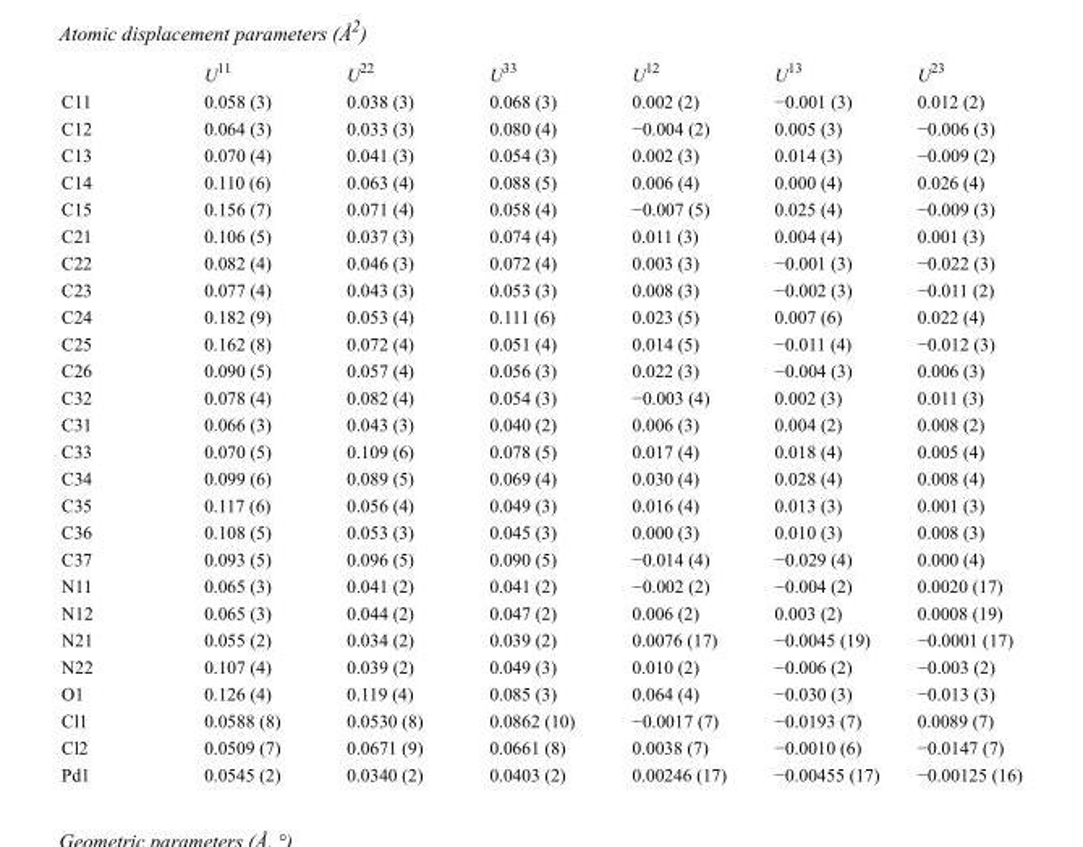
<table><thead><tr><td></td><td>U<sup>11</sup></td><td>U<sup>22</sup></td><td>U<sup>33</sup></td><td>U<sup>12</sup></td><td>U<sup>13</sup></td><td>U<sup>23</sup></td></tr></thead><tbody><tr><td>C11</td><td>0.058 (3)</td><td>0.038 (3)</td><td>0.068 (3)</td><td>0.002 (2)</td><td>−0.001 (3)</td><td>0.012 (2)</td></tr><tr><td>C12</td><td>0.064 (3)</td><td>0.033 (3)</td><td>0.080 (4)</td><td>−0.004 (2)</td><td>0.005 (3)</td><td>−0.006 (3)</td></tr><tr><td>C13</td><td>0.070 (4)</td><td>0.041 (3)</td><td>0.054 (3)</td><td>0.002 (3)</td><td>0.014 (3)</td><td>−0.009 (2)</td></tr><tr><td>C14</td><td>0.110 (6)</td><td>0.063 (4)</td><td>0.088 (5)</td><td>0.006 (4)</td><td>0.000 (4)</td><td>0.026 (4)</td></tr><tr><td>C15</td><td>0.156 (7)</td><td>0.071 (4)</td><td>0.058 (4)</td><td>−0.007 (5)</td><td>0.025 (4)</td><td>−0.009 (3)</td></tr><tr><td>C21</td><td>0.106 (5)</td><td>0.037 (3)</td><td>0.074 (4)</td><td>0.011 (3)</td><td>0.004 (4)</td><td>0.001 (3)</td></tr><tr><td>C22</td><td>0.082 (4)</td><td>0.046 (3)</td><td>0.072 (4)</td><td>0.003 (3)</td><td>−0.001 (3)</td><td>−0.022 (3)</td></tr><tr><td>C23</td><td>0.077 (4)</td><td>0.043 (3)</td><td>0.053 (3)</td><td>0.008 (3)</td><td>−0.002 (3)</td><td>−0.011 (2)</td></tr><tr><td>C24</td><td>0.182 (9)</td><td>0.053 (4)</td><td>0.111 (6)</td><td>0.023 (5)</td><td>0.007 (6)</td><td>0.022 (4)</td></tr><tr><td>C25</td><td>0.162 (8)</td><td>0.072 (4)</td><td>0.051 (4)</td><td>0.014 (5)</td><td>−0.011 (4)</td><td>−0.012 (3)</td></tr><tr><td>C26</td><td>0.090 (5)</td><td>0.057 (4)</td><td>0.056 (3)</td><td>0.022 (3)</td><td>−0.004 (3)</td><td>0.006 (3)</td></tr><tr><td>C32</td><td>0.078 (4)</td><td>0.082 (4)</td><td>0.054 (3)</td><td>−0.003 (4)</td><td>0.002 (3)</td><td>0.011 (3)</td></tr><tr><td>C31</td><td>0.066 (3)</td><td>0.043 (3)</td><td>0.040 (2)</td><td>0.006 (3)</td><td>0.004 (2)</td><td>0.008 (2)</td></tr><tr><td>C33</td><td>0.070 (5)</td><td>0.109 (6)</td><td>0.078 (5)</td><td>0.017 (4)</td><td>0.018 (4)</td><td>0.005 (4)</td></tr><tr><td>C34</td><td>0.099 (6)</td><td>0.089 (5)</td><td>0.069 (4)</td><td>0.030 (4)</td><td>0.028 (4)</td><td>0.008 (4)</td></tr><tr><td>C35</td><td>0.117 (6)</td><td>0.056 (4)</td><td>0.049 (3)</td><td>0.016 (4)</td><td>0.013 (3)</td><td>0.001 (3)</td></tr><tr><td>C36</td><td>0.108 (5)</td><td>0.053 (3)</td><td>0.045 (3)</td><td>0.000 (3)</td><td>0.010 (3)</td><td>0.008 (3)</td></tr><tr><td>C37</td><td>0.093 (5)</td><td>0.096 (5)</td><td>0.090 (5)</td><td>−0.014 (4)</td><td>−0.029 (4)</td><td>0.000 (4)</td></tr><tr><td>N11</td><td>0.065 (3)</td><td>0.041 (2)</td><td>0.041 (2)</td><td>−0.002 (2)</td><td>−0.004 (2)</td><td>0.0020 (17)</td></tr><tr><td>N12</td><td>0.065 (3)</td><td>0.044 (2)</td><td>0.047 (2)</td><td>0.006 (2)</td><td>0.003 (2)</td><td>0.0008 (19)</td></tr><tr><td>N21</td><td>0.055 (2)</td><td>0.034 (2)</td><td>0.039 (2)</td><td>0.0076 (17)</td><td>−0.0045 (19)</td><td>−0.0001 (17)</td></tr><tr><td>N22</td><td>0.107 (4)</td><td>0.039 (2)</td><td>0.049 (3)</td><td>0.010 (2)</td><td>−0.006 (2)</td><td>−0.003 (2)</td></tr><tr><td>O1</td><td>0.126 (4)</td><td>0.119 (4)</td><td>0.085 (3)</td><td>0.064 (4)</td><td>−0.030 (3)</td><td>−0.013 (3)</td></tr><tr><td>Cl1</td><td>0.0588 (8)</td><td>0.0530 (8)</td><td>0.0862 (10)</td><td>−0.0017 (7)</td><td>−0.0193 (7)</td><td>0.0089 (7)</td></tr><tr><td>Cl2</td><td>0.0509 (7)</td><td>0.0671 (9)</td><td>0.0661 (8)</td><td>0.0038 (7)</td><td>−0.0010 (6)</td><td>−0.0147 (7)</td></tr><tr><td>Pd1</td><td>0.0545 (2)</td><td>0.0340 (2)</td><td>0.0403 (2)</td><td>0.00246 (17)</td><td>−0.00455 (17)</td><td>−0.00125 (16)</td></tr></tbody></table>